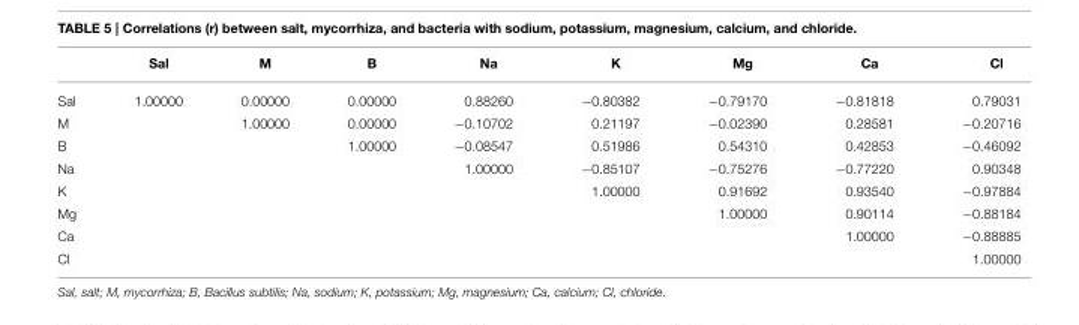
<table><thead><tr><td></td><td>Sal</td><td>M</td><td>B</td><td>Na</td><td>K</td><td>Mg</td><td>Ca</td><td>Cl</td></tr></thead><tbody><tr><td>Sal</td><td>1.00000</td><td>0.00000</td><td>0.00000</td><td>0.88260</td><td>−0.80382</td><td>−0.79170</td><td>−0.81818</td><td>0.79031</td></tr><tr><td>M</td><td></td><td>1.00000</td><td>0.00000</td><td>−0.10702</td><td>0.21197</td><td>−0.02390</td><td>0.28581</td><td>−0.20716</td></tr><tr><td>B</td><td></td><td></td><td>1.00000</td><td>−0.08547</td><td>0.51986</td><td>0.54310</td><td>0.42853</td><td>−0.46092</td></tr><tr><td>Na</td><td></td><td></td><td></td><td>1.00000</td><td>−0.85107</td><td>−0.75276</td><td>−0.77220</td><td>0.90348</td></tr><tr><td>K</td><td></td><td></td><td></td><td></td><td>1.00000</td><td>0.91692</td><td>0.93540</td><td>−0.97884</td></tr><tr><td>Mg</td><td></td><td></td><td></td><td></td><td></td><td>1.00000</td><td>0.90114</td><td>−0.88184</td></tr><tr><td>Ca</td><td></td><td></td><td></td><td></td><td></td><td></td><td>1.00000</td><td>−0.88885</td></tr><tr><td>Cl</td><td></td><td></td><td></td><td></td><td></td><td></td><td></td><td>1.00000</td></tr></tbody></table>